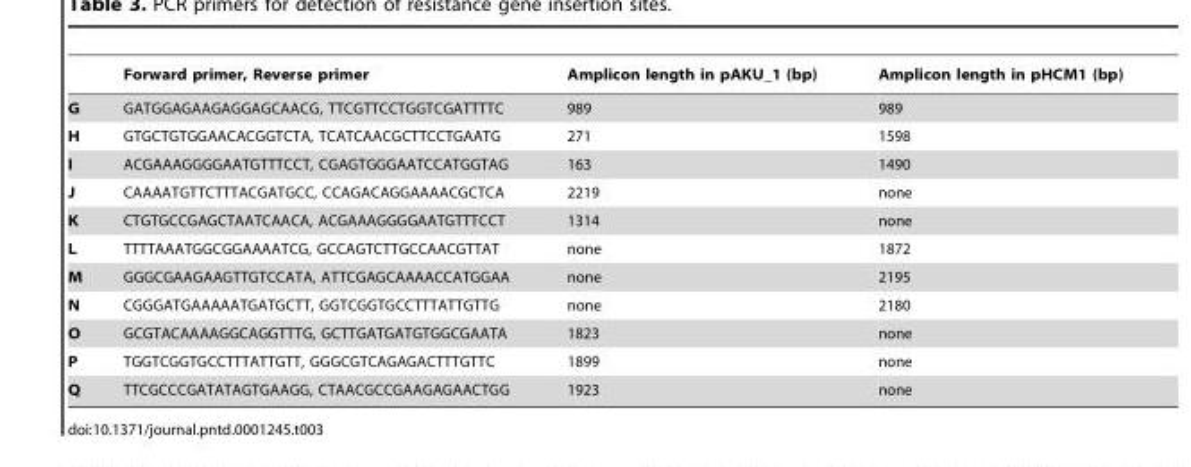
<table><thead><tr><td></td><td>Forward primer, Reverse primer</td><td>Amplicon length in pAKU_1 (bp)</td><td>Amplicon length in pHCM1 (bp)</td></tr></thead><tbody><tr><td>G</td><td>GATGGAGAAGAGGAGCAACG, TTCGTTCCTGGTCGATTTTC</td><td>989</td><td>989</td></tr><tr><td>H</td><td>GTGCTGTGGAACACGGTCTA, TCATCAACGCTTCCTGAATG</td><td>271</td><td>1598</td></tr><tr><td>I</td><td>ACGAAAGGGGAATGTTTCCT, CGAGTGGGAATCCATGGTAG</td><td>163</td><td>1490</td></tr><tr><td>J</td><td>CAAAATGTTCTTTACGATGCC, CCAGACAGGAAAACGCTCA</td><td>2219</td><td>none</td></tr><tr><td>K</td><td>CTGTGCCGAGCTAATCAACA, ACGAAAGGGGAATGTTTCCT</td><td>1314</td><td>none</td></tr><tr><td>L</td><td>TTTTAAATGGCGGAAAATCG, GCCAGTCTTGCCAACGTTAT</td><td>none</td><td>1872</td></tr><tr><td>M</td><td>GGGCGAAGAAGTTGTCCATA, ATTCGAGCAAAACCATGGAA</td><td>none</td><td>2195</td></tr><tr><td>N</td><td>CGGGATGAAAAATGATGCTT, GGTCGGTGCCTTTATTGTTG</td><td>none</td><td>2180</td></tr><tr><td>O</td><td>GCGTACAAAAGGCAGGTTTG, GCTTGATGATGTGGCGAATA</td><td>1823</td><td>none</td></tr><tr><td>P</td><td>TGGTCGGTGCCTTTATTGTT, GGGCGTCAGAGACTTTGTTC</td><td>1899</td><td>none</td></tr><tr><td>Q</td><td>TTCGCCCGATATAGTGAAGG, CTAACGCCGAAGAGAACTGG</td><td>1923</td><td>none</td></tr></tbody></table>